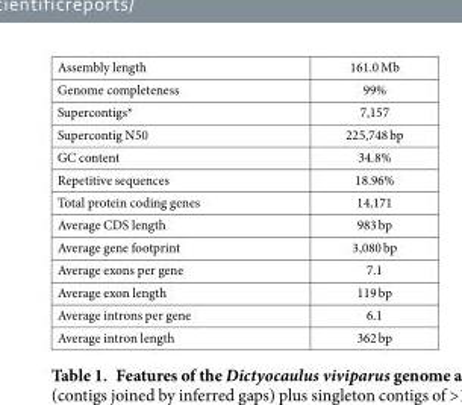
<table><tbody><tr><td>Assembly length</td><td>161.0 Mb</td></tr><tr><td>Genome completeness</td><td>99%</td></tr><tr><td>Supercontigs*</td><td>7,157</td></tr><tr><td>Supercontig N50</td><td>225,748 bp</td></tr><tr><td>GC content</td><td>34.8%</td></tr><tr><td>Repetitive sequences</td><td>18.96%</td></tr><tr><td>Total protein coding genes</td><td>14,171</td></tr><tr><td>Average CDS length</td><td>983 bp</td></tr><tr><td>Average gene footprint</td><td>3,080 bp</td></tr><tr><td>Average exons per gene</td><td>7.1</td></tr><tr><td>Average exon length</td><td>119 bp</td></tr><tr><td>Average introns per gene</td><td>6.1</td></tr><tr><td>Average intron length</td><td>362 bp</td></tr></tbody></table>